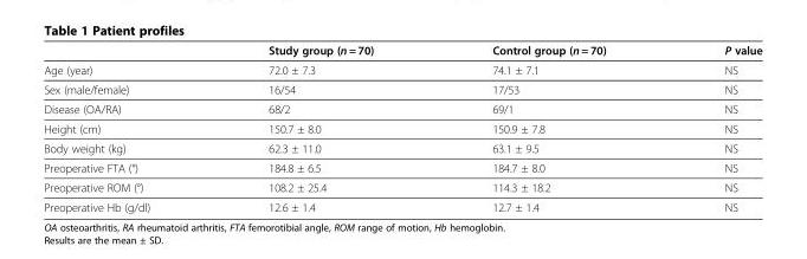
<table><thead><tr><td></td><td>Study group (n = 70)</td><td>Control group (n = 70)</td><td>P value</td></tr></thead><tbody><tr><td>Age (year)</td><td>72.0 ± 7.3</td><td>74.1 ± 7.1</td><td>NS</td></tr><tr><td>Sex (male/female)</td><td>16/54</td><td>17/53</td><td>NS</td></tr><tr><td>Disease (OA/RA)</td><td>68/2</td><td>69/1</td><td>NS</td></tr><tr><td>Height (cm)</td><td>150.7 ± 8.0</td><td>150.9 ± 7.8</td><td>NS</td></tr><tr><td>Body weight (kg)</td><td>62.3 ± 11.0</td><td>63.1 ± 9.5</td><td>NS</td></tr><tr><td>Preoperative FTA (°)</td><td>184.8 ± 6.5</td><td>184.7 ± 8.0</td><td>NS</td></tr><tr><td>Preoperative ROM (°)</td><td>108.2 ± 25.4</td><td>114.3 ± 18.2</td><td>NS</td></tr><tr><td>Preoperative Hb (g/dl)</td><td>12.6 ± 1.4</td><td>12.7 ± 1.4</td><td>NS</td></tr></tbody></table>